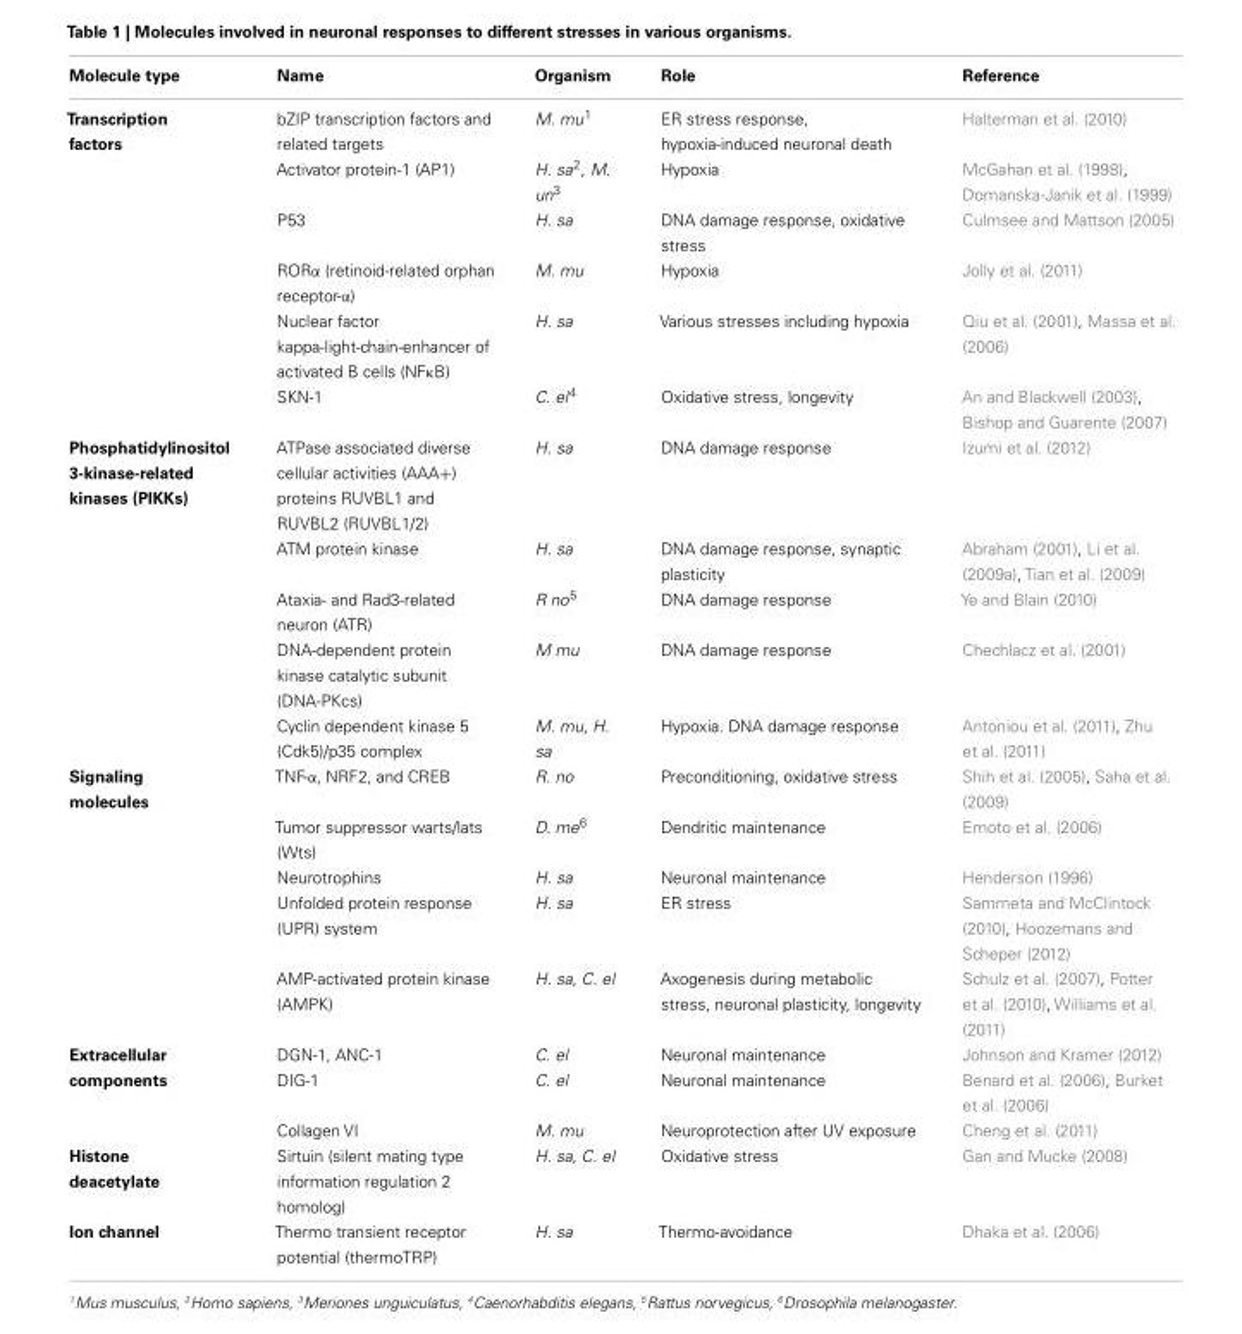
<table><thead><tr><td>Molecule type</td><td>Name</td><td>Organism</td><td>Role</td><td>Reference</td></tr></thead><tbody><tr><td rowspan="6">Transcription factors</td><td>bZIP transcription factors and related targets</td><td>M. mu<sup>1</sup></td><td>ER stress response, hypoxia-induced neuronal death</td><td>Halterman et al. (2010)</td></tr><tr><td>Activator protein-1 (AP1)</td><td>H. sa<sup>2</sup>, M. un<sup>3</sup></td><td>Hypoxia</td><td>McGahan et al. (1998), Domanska-Janik et al. (1999)</td></tr><tr><td>P53</td><td>H. sa</td><td>DNA damage response, oxidative stress</td><td>Culmsee and Mattson (2005)</td></tr><tr><td>RORα (retinoid-related orphan receptor-α)</td><td>M. mu</td><td>Hypoxia</td><td>Jolly et al. (2011)</td></tr><tr><td>Nuclear factor kappa-light-chain-enhancer of activated B cells (NFκB)</td><td>H. sa</td><td>Various stresses including hypoxia</td><td>Qiu et al. (2001), Massa et al. (2006)</td></tr><tr><td>SKN-1</td><td>C. el<sup>4</sup></td><td>Oxidative stress, longevity</td><td>An and Blackwell (2003), Bishop and Guarente (2007)</td></tr><tr><td rowspan="5">Phosphatidylinositol 3-kinase-related kinases (PIKKs)</td><td>ATPase associated diverse cellular activities (AAA+) proteins RUVBL1 and RUVBL2 (RUVBL1/2)</td><td>H. sa</td><td>DNA damage response</td><td>Izumi et al. (2012)</td></tr><tr><td>ATM protein kinase</td><td>H. sa</td><td>DNA damage response, synaptic plasticity</td><td>Abraham (2001), Li et al. (2009a), Tian et al. (2009)</td></tr><tr><td>Ataxia- and Rad3-related neuron (ATR)</td><td>R no<sup>5</sup></td><td>DNA damage response</td><td>Ye and Blain (2010)</td></tr><tr><td>DNA-dependent protein kinase catalytic subunit (DNA-PKcs)</td><td>M mu</td><td>DNA damage response</td><td>Chechlacz et al. (2001)</td></tr><tr><td>Cyclin dependent kinase 5 (Cdk5)/p35 complex</td><td>M. mu, H. sa</td><td>Hypoxia. DNA damage response</td><td>Antoniou et al. (2011), Zhu et al. (2011)</td></tr><tr><td rowspan="5">Signaling molecules</td><td>TNF-α, NRF2, and CREB</td><td>R. no</td><td>Preconditioning, oxidative stress</td><td>Shih et al. (2005), Saha et al. (2009)</td></tr><tr><td>Tumor suppressor warts/lats (Wts)</td><td>D. me<sup>6</sup></td><td>Dendritic maintenance</td><td>Emoto et al. (2006)</td></tr><tr><td>Neurotrophins</td><td>H. sa</td><td>Neuronal maintenance</td><td>Henderson (1996)</td></tr><tr><td>Unfolded protein response (UPR) system</td><td>H. sa</td><td>ER stress</td><td>Sammeta and McClintock (2010), Hoozemans and Scheper (2012)</td></tr><tr><td>AMP-activated protein kinase (AMPK)</td><td>H. sa, C. el</td><td>Axogenesis during metabolic stress, neuronal plasticity, longevity</td><td>Schulz et al. (2007), Potter et al. (2010), Williams et al. (2011)</td></tr><tr><td>Extracellular</td><td>DGN-1, ANC-1</td><td>C. el</td><td>Neuronal maintenance</td><td>Johnson and Kramer (2012)</td></tr><tr><td rowspan="2">components</td><td>DIG-1</td><td>C. el</td><td>Neuronal maintenance</td><td>Benard et al. (2006), Burket et al. (2006)</td></tr><tr><td>Collagen VI</td><td>M. mu</td><td>Neuroprotection after UV exposure</td><td>Cheng et al. (2011)</td></tr><tr><td>Histone deacetylate</td><td>Sirtuin (silent mating type information regulation 2 homolog)</td><td>H. sa, C. el</td><td>Oxidative stress</td><td>Gan and Mucke (2008)</td></tr><tr><td>Ion channel</td><td>Thermo transient receptor potential (thermoTRP)</td><td>H. sa</td><td>Thermo-avoidance</td><td>Dhaka et al. (2006)</td></tr></tbody></table>